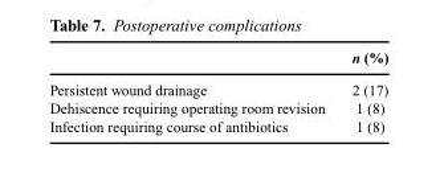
<table><thead><tr><td></td><td>n (%)</td></tr></thead><tbody><tr><td>Persistent wound drainage</td><td>2 (17)</td></tr><tr><td>Dehiscence requiring operating room revision</td><td>1 (8)</td></tr><tr><td>Infection requiring course of antibiotics</td><td>1 (8)</td></tr></tbody></table>